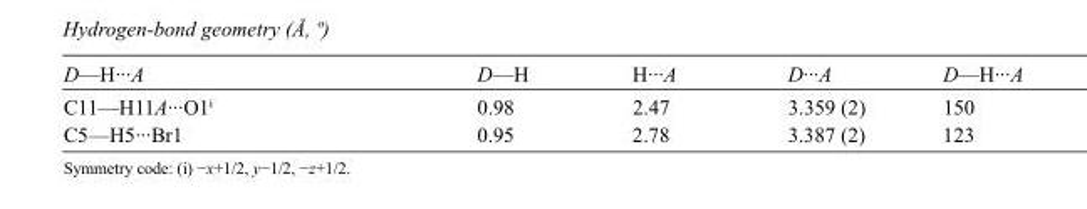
<table><tbody><tr><td>D—H···A</td><td>D—H</td><td>H···A</td><td>D···A</td><td>D—H···A</td></tr><tr><td>C11—H11A···O1<sup>i</sup></td><td>0.98</td><td>2.47</td><td>3.359 (2)</td><td>150</td></tr><tr><td>C5—H5···Br1</td><td>0.95</td><td>2.78</td><td>3.387 (2)</td><td>123</td></tr></tbody></table>